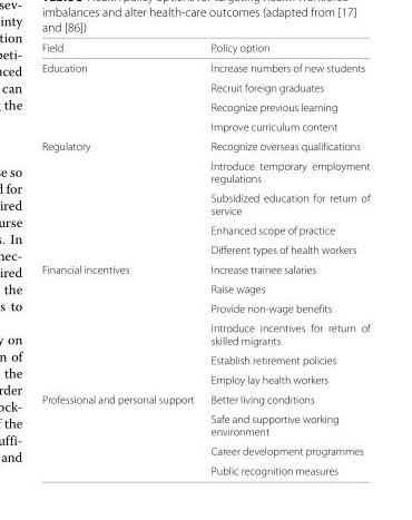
<table><thead><tr><td>Field</td><td>Policy option</td></tr></thead><tbody><tr><td rowspan="4">Education</td><td>Increase numbers of new students</td></tr><tr><td>Recruit foreign graduates</td></tr><tr><td>Recognize previous learning</td></tr><tr><td>Improve curriculum content</td></tr><tr><td rowspan="5">Regulatory</td><td>Recognize overseas qualifications</td></tr><tr><td>Introduce temporary employment regulations</td></tr><tr><td>Subsidized education for return of service</td></tr><tr><td>Enhanced scope of practice</td></tr><tr><td>Different types of health workers</td></tr><tr><td rowspan="6">Financial incentives</td><td>Increase trainee salaries</td></tr><tr><td>Raise wages</td></tr><tr><td>Provide non-wage benefits</td></tr><tr><td>Introduce incentives for return of skilled migrants</td></tr><tr><td>Establish retirement policies</td></tr><tr><td>Employ lay health workers</td></tr><tr><td rowspan="4">Professional and personal support</td><td>Better living conditions</td></tr><tr><td>Safe and supportive working environment</td></tr><tr><td>Career development programmes</td></tr><tr><td>Public recognition measures</td></tr></tbody></table>